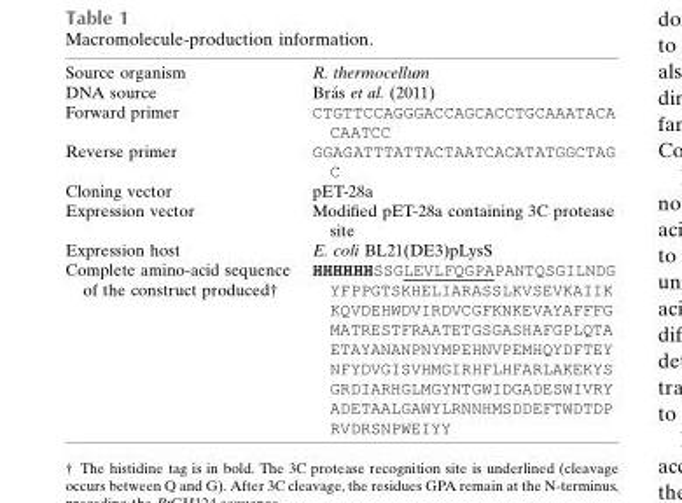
<table><tbody><tr><td>Source organism</td><td>R. thermocellum</td></tr><tr><td>DNA source</td><td>Bra´s et al. (2011)</td></tr><tr><td>Forward primer</td><td>CTGTTCCAGGGACCAGCACCTGCAAATACA CAATCC</td></tr><tr><td>Reverse primer</td><td>GGAGATTTATTACTAATCACATATGGCTAG C</td></tr><tr><td>Cloning vector</td><td>pET-28a</td></tr><tr><td>Expression vector</td><td>Modified pET-28a containing 3C protease site</td></tr><tr><td>Expression host</td><td>E. coli BL21(DE3)pLysS</td></tr><tr><td>Complete amino-acid sequence of the construct produced†</td><td>HHHHHHSSGLEVLFQGPAPANTQSGILNDG YFPPGTSKHELIARASSLKVSEVKAIIK KQVDEHWDVIRDVCGFKNKEVAYAFFFG MATRESTFRAATETGSGASHAFGPLQTA ETAYANANPNYMPEHNVPEMHQYDFTEY NFYDVGISVHMGIRHFLHFARLAKEKYS GRDIARHGLMGYNTGWIDGADESWIVRY ADETAALGAWYLRNNHMSDDEFTWDTDP RVDRSNPWEIYY</td></tr></tbody></table>